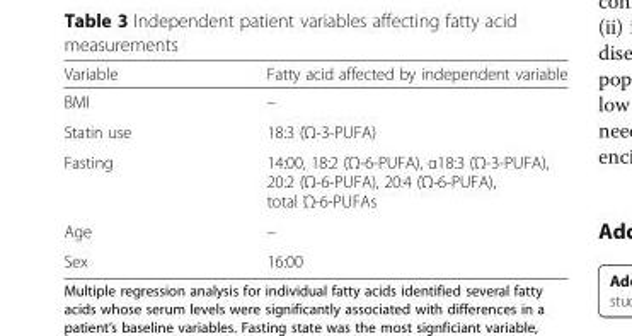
<table><thead><tr><td>Variable</td><td>Fatty acid affected by independent variable</td></tr></thead><tbody><tr><td>BMI</td><td>–</td></tr><tr><td>Statin use</td><td>18:3 (Ώ-3-PUFA)</td></tr><tr><td>Fasting</td><td>14:00, 18:2 (Ώ-6-PUFA), α18:3 (Ώ-3-PUFA), 20:2 (Ώ-6-PUFA), 20:4 (Ώ-6-PUFA), total Ώ-6-PUFAs</td></tr><tr><td>Age</td><td>–</td></tr><tr><td>Sex</td><td>16:00</td></tr></tbody></table>